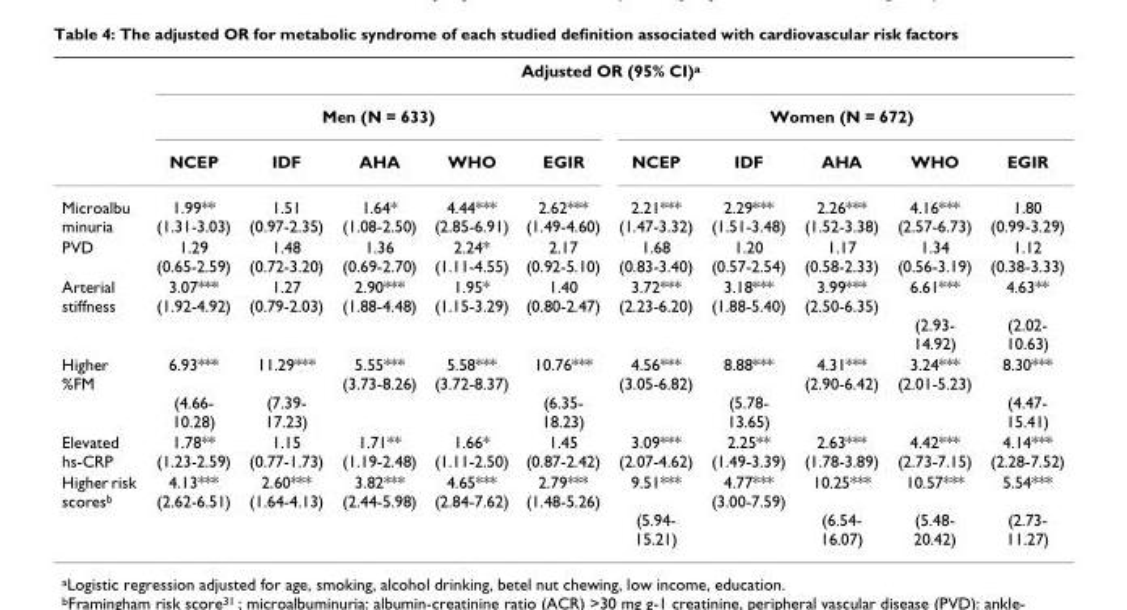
<table><thead><tr><td rowspan="3"></td><td colspan="10">Adjusted OR (95% CI)<sup>a</sup></td></tr><tr><td colspan="5">Men (N = 633)</td><td colspan="5">Women (N = 672)</td></tr><tr><td>NCEP</td><td>IDF</td><td>AHA</td><td>WHO</td><td>EGIR</td><td>NCEP</td><td>IDF</td><td>AHA</td><td>WHO</td><td>EGIR</td></tr></thead><tbody><tr><td>Microalbu minuria</td><td>1.99** (1.31-3.03)</td><td>1.51 (0.97-2.35)</td><td>1.64* (1.08-2.50)</td><td>4.44*** (2.85-6.91)</td><td>2.62*** (1.49-4.60)</td><td>2.21*** (1.47-3.32)</td><td>2.29*** (1.51-3.48)</td><td>2.26*** (1.52-3.38)</td><td>4.16*** (2.57-6.73)</td><td>1.80 (0.99-3.29)</td></tr><tr><td>PVD</td><td>1.29 (0.65-2.59)</td><td>1.48 (0.72-3.20)</td><td>1.36 (0.69-2.70)</td><td>2.24* (1.11-4.55)</td><td>2.17 (0.92-5.10)</td><td>1.68 (0.83-3.40)</td><td>1.20 (0.57-2.54)</td><td>1.17 (0.58-2.33)</td><td>1.34 (0.56-3.19)</td><td>1.12 (0.38-3.33)</td></tr><tr><td>Arterial stiffness</td><td>3.07*** (1.92-4.92)</td><td>1.27 (0.79-2.03)</td><td>2.90*** (1.88-4.48)</td><td>1.95* (1.15-3.29)</td><td>1.40 (0.80-2.47)</td><td>3.72*** (2.23-6.20)</td><td>3.18*** (1.88-5.40)</td><td>3.99*** (2.50-6.35)</td><td>6.61*** (2.93- 14.92)</td><td>4.63** (2.02- 10.63)</td></tr><tr><td>Higher %FM</td><td>6.93*** (4.66- 10.28)</td><td>11.29*** (7.39- 17.23)</td><td>5.55*** (3.73-8.26)</td><td>5.58*** (3.72-8.37)</td><td>10.76*** (6.35- 18.23)</td><td>4.56*** (3.05-6.82)</td><td>8.88*** (5.78- 13.65)</td><td>4.31*** (2.90-6.42)</td><td>3.24*** (2.01-5.23)</td><td>8.30*** (4.47- 15.41)</td></tr><tr><td>Elevated hs-CRP</td><td>1.78** (1.23-2.59)</td><td>1.15 (0.77-1.73)</td><td>1.71** (1.19-2.48)</td><td>1.66* (1.11-2.50)</td><td>1.45 (0.87-2.42)</td><td>3.09*** (2.07-4.62)</td><td>2.25** (1.49-3.39)</td><td>2.63*** (1.78-3.89)</td><td>4.42*** (2.73-7.15)</td><td>4.14*** (2.28-7.52)</td></tr><tr><td>Higher risk scores<sup>b</sup></td><td>4.13*** (2.62-6.51)</td><td>2.60*** (1.64-4.13)</td><td>3.82*** (2.44-5.98)</td><td>4.65*** (2.84-7.62)</td><td>2.79*** (1.48-5.26)</td><td>9.51*** (5.94- 15.21)</td><td>4.77*** (3.00-7.59)</td><td>10.25*** (6.54- 16.07)</td><td>10.57*** (5.48- 20.42)</td><td>5.54*** (2.73- 11.27)</td></tr></tbody></table>